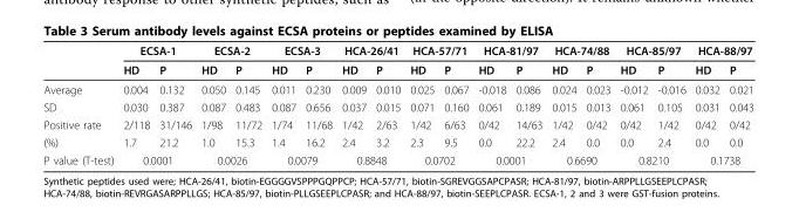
<table><thead><tr><td rowspan="2"></td><td colspan="2">ECSA-1</td><td colspan="2">ECSA-2</td><td colspan="2">ECSA-3</td><td colspan="2">HCA-26/41</td><td colspan="2">HCA-57/71</td><td colspan="2">HCA-81/97</td><td colspan="2">HCA-74/88</td><td colspan="2">HCA-85/97</td><td colspan="2">HCA-88/97</td></tr><tr><td>HD</td><td>P</td><td>HD</td><td>P</td><td>HD</td><td>P</td><td>HD</td><td>P</td><td>HD</td><td>P</td><td>HD</td><td>P</td><td>HD</td><td>P</td><td>HD</td><td>P</td><td>HD</td><td>P</td></tr></thead><tbody><tr><td>Average</td><td>0.004</td><td>0.132</td><td>0.050</td><td>0.145</td><td>0.011</td><td>0.230</td><td>0.009</td><td>0.010</td><td>0.025</td><td>0.067</td><td>-0.018</td><td>0.086</td><td>0.024</td><td>0.023</td><td>-0.012</td><td>-0.016</td><td>0.032</td><td>0.021</td></tr><tr><td>SD</td><td>0.030</td><td>0.387</td><td>0.087</td><td>0.483</td><td>0.087</td><td>0.656</td><td>0.037</td><td>0.015</td><td>0.071</td><td>0.160</td><td>0.061</td><td>0.189</td><td>0.015</td><td>0.013</td><td>0.061</td><td>0.105</td><td>0.031</td><td>0.043</td></tr><tr><td>Positive rate</td><td>2/118</td><td>31/146</td><td>1/98</td><td>11/72</td><td>1/74</td><td>11/68</td><td>1/42</td><td>2/63</td><td>1/42</td><td>6/63</td><td>0/42</td><td>14/63</td><td>1/42</td><td>0/42</td><td>0/42</td><td>1/42</td><td>0/42</td><td>0/42</td></tr><tr><td>(%)</td><td>1.7</td><td>21.2</td><td>1.0</td><td>15.3</td><td>1.4</td><td>16.2</td><td>2.4</td><td>3.2</td><td>2.3</td><td>9.5</td><td>0.0</td><td>22.2</td><td>2.4</td><td>0.0</td><td>0.0</td><td>2.4</td><td>0.0</td><td>0.0</td></tr><tr><td>P value (T-test)</td><td colspan="2">0.0001</td><td colspan="2">0.0026</td><td colspan="2">0.0079</td><td colspan="2">0.8848</td><td colspan="2">0.0702</td><td colspan="2">0.0001</td><td colspan="2">0.6690</td><td colspan="2">0.8210</td><td colspan="2">0.1738</td></tr></tbody></table>